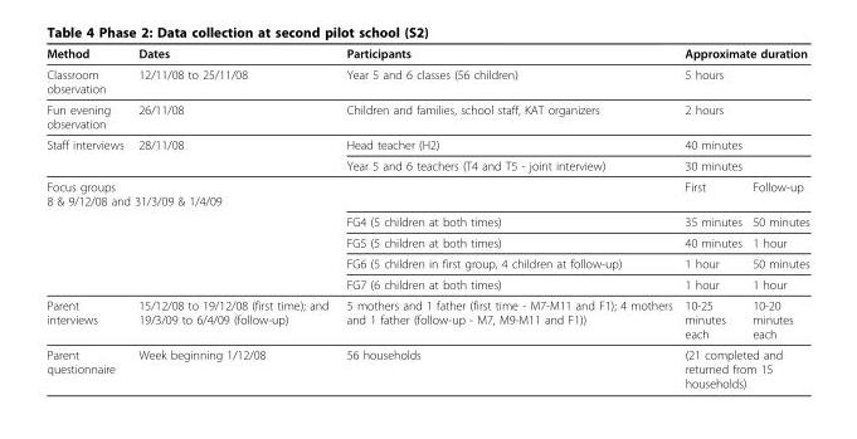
<table><thead><tr><td>Method</td><td>Dates</td><td>Participants</td><td colspan="2">Approximate duration</td></tr></thead><tbody><tr><td>Classroom observation</td><td>12/11/08 to 25/11/08</td><td>Year 5 and 6 classes (56 children)</td><td colspan="2">5 hours</td></tr><tr><td>Fun evening observation</td><td>26/11/08</td><td>Children and families, school staff, KAT organizers</td><td colspan="2">2 hours</td></tr><tr><td rowspan="2">Staff interviews</td><td>28/11/08</td><td>Head teacher (H2)</td><td colspan="2">40 minutes</td></tr><tr><td></td><td>Year 5 and 6 teachers (T4 and T5 - joint interview)</td><td colspan="2">30 minutes</td></tr><tr><td colspan="2">Focus groups 8 &amp; 9/12/08 and 31/3/09 &amp; 1/4/09</td><td></td><td>First</td><td>Follow-up</td></tr><tr><td></td><td></td><td>FG4 (5 children at both times)</td><td>35 minutes</td><td>50 minutes</td></tr><tr><td></td><td></td><td>FG5 (5 children at both times)</td><td>40 minutes</td><td>1 hour</td></tr><tr><td></td><td></td><td>FG6 (5 children in first group, 4 children at follow-up)</td><td>1 hour</td><td>50 minutes</td></tr><tr><td></td><td></td><td>FG7 (6 children at both times)</td><td>1 hour</td><td>1 hour</td></tr><tr><td>Parent interviews</td><td>15/12/08 to 19/12/08 (first time); and 19/3/09 to 6/4/09 (follow-up)</td><td>5 mothers and 1 father (first time - M7-M11 and F1); 4 mothers and 1 father (follow-up - M7, M9-M11 and F1))</td><td>10-25 minutes each</td><td>10-20 minutes each</td></tr><tr><td>Parent questionnaire</td><td>Week beginning 1/12/08</td><td>56 households</td><td colspan="2">(21 completed and returned from 15 households)</td></tr></tbody></table>